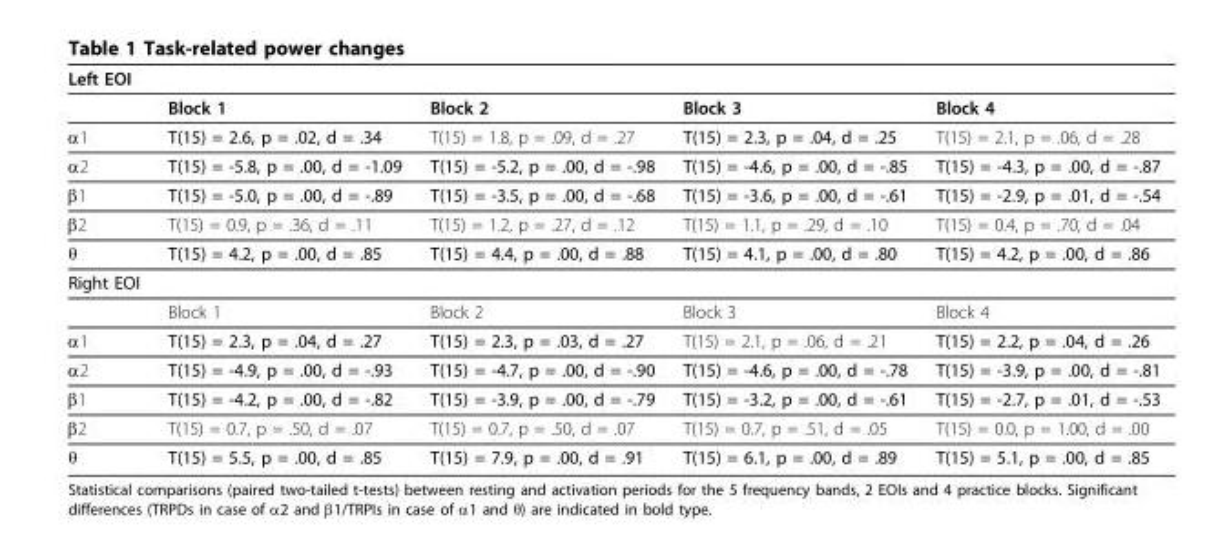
<table><thead><tr><td>Left EOI</td><td></td><td></td><td></td><td></td></tr></thead><tbody><tr><td></td><td>Block 1</td><td>Block 2</td><td>Block 3</td><td>Block 4</td></tr><tr><td>α1</td><td>T(15) = 2.6, p = .02, d = .34</td><td>T(15) = 1.8, p = .09, d = .27</td><td>T(15) = 2.3, p = .04, d = .25</td><td>T(15) = 2.1, p = .06, d = .28</td></tr><tr><td>α2</td><td>T(15) = -5.8, p = .00, d = -1.09</td><td>T(15) = -5.2, p = .00, d = -.98</td><td>T(15) = -4.6, p = .00, d = -.85</td><td>T(15) = -4.3, p = .00, d = -.87</td></tr><tr><td>β1</td><td>T(15) = -5.0, p = .00, d = -.89</td><td>T(15) = -3.5, p = .00, d = -.68</td><td>T(15) = -3.6, p = .00, d = -.61</td><td>T(15) = -2.9, p = .01, d = -.54</td></tr><tr><td>β2</td><td>T(15) = 0.9, p = .36, d = .11</td><td>T(15) = 1.2, p = .27, d = .12</td><td>T(15) = 1.1, p = .29, d = .10</td><td>T(15) = 0.4, p = .70, d = .04</td></tr><tr><td>θ</td><td>T(15) = 4.2, p = .00, d = .85</td><td>T(15) = 4.4, p = .00, d = .88</td><td>T(15) = 4.1, p = .00, d = .80</td><td>T(15) = 4.2, p = .00, d = .86</td></tr><tr><td colspan="5">Right EOI</td></tr><tr><td></td><td>Block 1</td><td>Block 2</td><td>Block 3</td><td>Block 4</td></tr><tr><td>α1</td><td>T(15) = 2.3, p = .04, d = .27</td><td>T(15) = 2.3, p = .03, d = .27</td><td>T(15) = 2.1, p = .06, d = .21</td><td>T(15) = 2.2, p = .04, d = .26</td></tr><tr><td>α2</td><td>T(15) = -4.9, p = .00, d = -.93</td><td>T(15) = -4.7, p = .00, d = -.90</td><td>T(15) = -4.6, p = .00, d = -.78</td><td>T(15) = -3.9, p = .00, d = -.81</td></tr><tr><td>β1</td><td>T(15) = -4.2, p = .00, d = -.82</td><td>T(15) = -3.9, p = .00, d = -.79</td><td>T(15) = -3.2, p = .00, d = -.61</td><td>T(15) = -2.7, p = .01, d = -.53</td></tr><tr><td>β2</td><td>T(15) = 0.7, p = .50, d = .07</td><td>T(15) = 0.7, p = .50, d = .07</td><td>T(15) = 0.7, p = .51, d = .05</td><td>T(15) = 0.0, p = 1.00, d = .00</td></tr><tr><td>θ</td><td>T(15) = 5.5, p = .00, d = .85</td><td>T(15) = 7.9, p = .00, d = .91</td><td>T(15) = 6.1, p = .00, d = .89</td><td>T(15) = 5.1, p = .00, d = .85</td></tr></tbody></table>